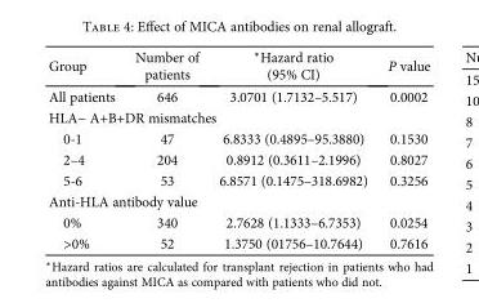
<table><thead><tr><td>Group</td><td>Number of patients</td><td>∗Hazard ratio (95% CI)</td><td>P value</td></tr></thead><tbody><tr><td>All patients</td><td>646</td><td>3.0701 (1.7132–5.517)</td><td>0.0002</td></tr><tr><td colspan="4">HLA− A+B+DR mismatches</td></tr><tr><td>0-1</td><td>47</td><td>6.8333 (0.4895–95.3880)</td><td>0.1530</td></tr><tr><td>2–4</td><td>204</td><td>0.8912 (0.3611–2.1996)</td><td>0.8027</td></tr><tr><td>5-6</td><td>53</td><td>6.8571 (0.1475–318.6982)</td><td>0.3256</td></tr><tr><td colspan="4">Anti-HLA antibody value</td></tr><tr><td>0%</td><td>340</td><td>2.7628 (1.1333–6.7353)</td><td>0.0254</td></tr><tr><td>&gt;0%</td><td>52</td><td>1.3750 (01756–10.7644)</td><td>0.7616</td></tr></tbody></table>